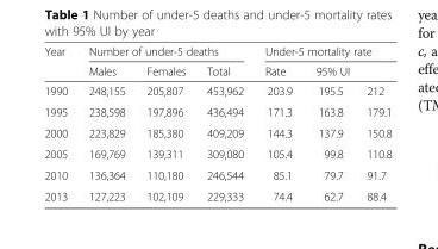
<table><thead><tr><td rowspan="3">Year 1990</td><td colspan="3">Number of under-5 deaths</td><td colspan="3">Under-5 mortality rate</td></tr><tr><td rowspan="2">Males 248,155</td><td rowspan="2">Females 205,807</td><td rowspan="2">Total 453,962</td><td rowspan="2">Rate 203.9</td><td colspan="2">95% UI</td></tr><tr><td>195.5</td><td>212</td></tr></thead><tbody><tr><td>1995</td><td>238,598</td><td>197,896</td><td>436,494</td><td>171.3</td><td>163.8</td><td>179.1</td></tr><tr><td>2000</td><td>223,829</td><td>185,380</td><td>409,209</td><td>144.3</td><td>137.9</td><td>150.8</td></tr><tr><td>2005</td><td>169,769</td><td>139,311</td><td>309,080</td><td>105.4</td><td>99.8</td><td>110.8</td></tr><tr><td>2010</td><td>136,364</td><td>110,180</td><td>246,544</td><td>85.1</td><td>79.7</td><td>91.7</td></tr><tr><td>2013</td><td>127,223</td><td>102,109</td><td>229,333</td><td>74.4</td><td>62.7</td><td>88.4</td></tr></tbody></table>